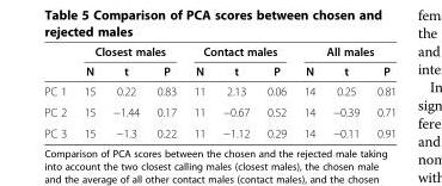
<table><thead><tr><td rowspan="2"></td><td colspan="3">Closest males</td><td colspan="3">Contact males</td><td colspan="3">All males</td></tr><tr><td>N</td><td>t</td><td>P</td><td>N</td><td>t</td><td>P</td><td>N</td><td>t</td><td>P</td></tr></thead><tbody><tr><td>PC 1</td><td>15</td><td>0.22</td><td>0.83</td><td>11</td><td>2.13</td><td>0.06</td><td>14</td><td>0.25</td><td>0.81</td></tr><tr><td>PC 2</td><td>15</td><td>−1.44</td><td>0.17</td><td>11</td><td>−0.67</td><td>0.52</td><td>14</td><td>−0.39</td><td>0.71</td></tr><tr><td>PC 3</td><td>15</td><td>−1.3</td><td>0.22</td><td>11</td><td>−1.12</td><td>0.29</td><td>14</td><td>−0.11</td><td>0.91</td></tr></tbody></table>